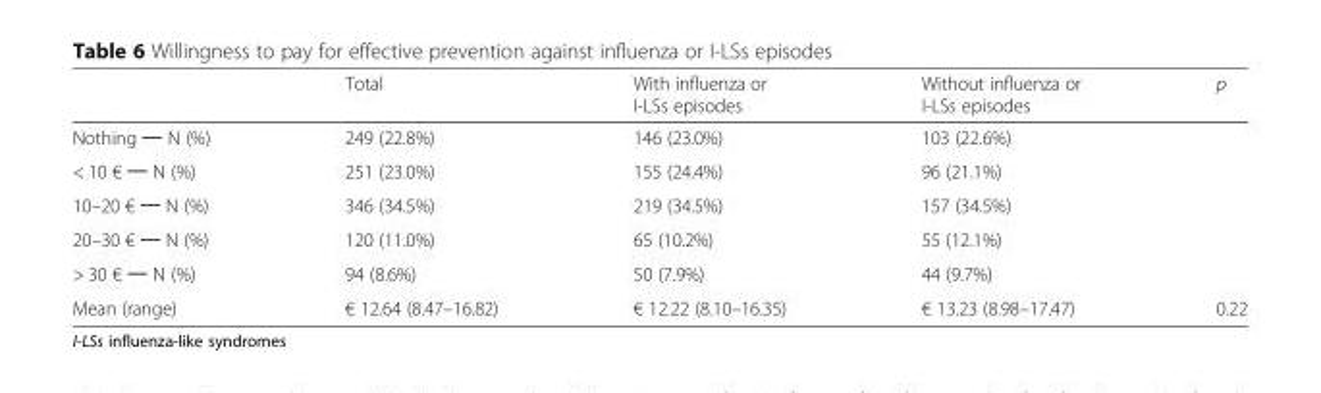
<table><thead><tr><td></td><td>Total</td><td>With influenza or I-LSs episodes</td><td>Without influenza or I-LSs episodes</td><td>p</td></tr></thead><tbody><tr><td>Nothing ─ N (%)</td><td>249 (22.8%)</td><td>146 (23.0%)</td><td>103 (22.6%)</td><td></td></tr><tr><td>&lt; 10 € ─ N (%)</td><td>251 (23.0%)</td><td>155 (24.4%)</td><td>96 (21.1%)</td><td></td></tr><tr><td>10–20 € ─ N (%)</td><td>346 (34.5%)</td><td>219 (34.5%)</td><td>157 (34.5%)</td><td></td></tr><tr><td>20–30 € ─ N (%)</td><td>120 (11.0%)</td><td>65 (10.2%)</td><td>55 (12.1%)</td><td></td></tr><tr><td>&gt; 30 € ─ N (%)</td><td>94 (8.6%)</td><td>50 (7.9%)</td><td>44 (9.7%)</td><td></td></tr><tr><td>Mean (range)</td><td>€ 12.64 (8.47–16.82)</td><td>€ 12.22 (8.10–16.35)</td><td>€ 13.23 (8.98–17.47)</td><td>0.22</td></tr></tbody></table>